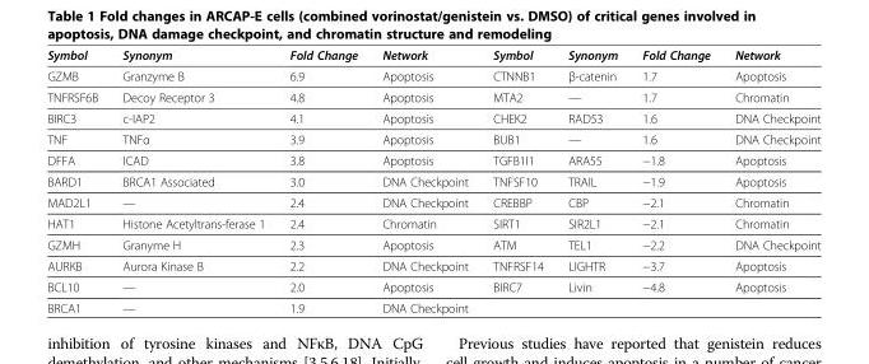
<table><thead><tr><td>Symbol</td><td>Synonym</td><td>Fold Change</td><td>Network</td><td>Symbol</td><td>Synonym</td><td>Fold Change</td><td>Network</td></tr></thead><tbody><tr><td>GZMB</td><td>Granzyme B</td><td>6.9</td><td>Apoptosis</td><td>CTNNB1</td><td>β-catenin</td><td>1.7</td><td>Apoptosis</td></tr><tr><td>TNFRSF6B</td><td>Decoy Receptor 3</td><td>4.8</td><td>Apoptosis</td><td>MTA2</td><td>—</td><td>1.7</td><td>Chromatin</td></tr><tr><td>BIRC3</td><td>c-IAP2</td><td>4.1</td><td>Apoptosis</td><td>CHEK2</td><td>RAD53</td><td>1.6</td><td>DNA Checkpoint</td></tr><tr><td>TNF</td><td>TNFα</td><td>3.9</td><td>Apoptosis</td><td>BUB1</td><td>—</td><td>1.6</td><td>DNA Checkpoint</td></tr><tr><td>DFFA</td><td>ICAD</td><td>3.8</td><td>Apoptosis</td><td>TGFB1I1</td><td>ARA55</td><td>−1.8</td><td>Apoptosis</td></tr><tr><td>BARD1</td><td>BRCA1 Associated</td><td>3.0</td><td>DNA Checkpoint</td><td>TNFSF10</td><td>TRAIL</td><td>−1.9</td><td>Apoptosis</td></tr><tr><td>MAD2L1</td><td>—</td><td>2.4</td><td>DNA Checkpoint</td><td>CREBBP</td><td>CBP</td><td>−2.1</td><td>Chromatin</td></tr><tr><td>HAT1</td><td>Histone Acetyltrans-ferase 1</td><td>2.4</td><td>Chromatin</td><td>SIRT1</td><td>SIR2L1</td><td>−2.1</td><td>Chromatin</td></tr><tr><td>GZMH</td><td>Granyme H</td><td>2.3</td><td>Apoptosis</td><td>ATM</td><td>TEL1</td><td>−2.2</td><td>DNA Checkpoint</td></tr><tr><td>AURKB</td><td>Aurora Kinase B</td><td>2.2</td><td>DNA Checkpoint</td><td>TNFRSF14</td><td>LIGHTR</td><td>−3.7</td><td>Apoptosis</td></tr><tr><td>BCL10</td><td>—</td><td>2.0</td><td>Apoptosis</td><td>BIRC7</td><td>Livin</td><td>−4.8</td><td>Apoptosis</td></tr><tr><td>BRCA1</td><td>—</td><td>1.9</td><td>DNA Checkpoint</td><td></td><td></td><td></td><td></td></tr></tbody></table>